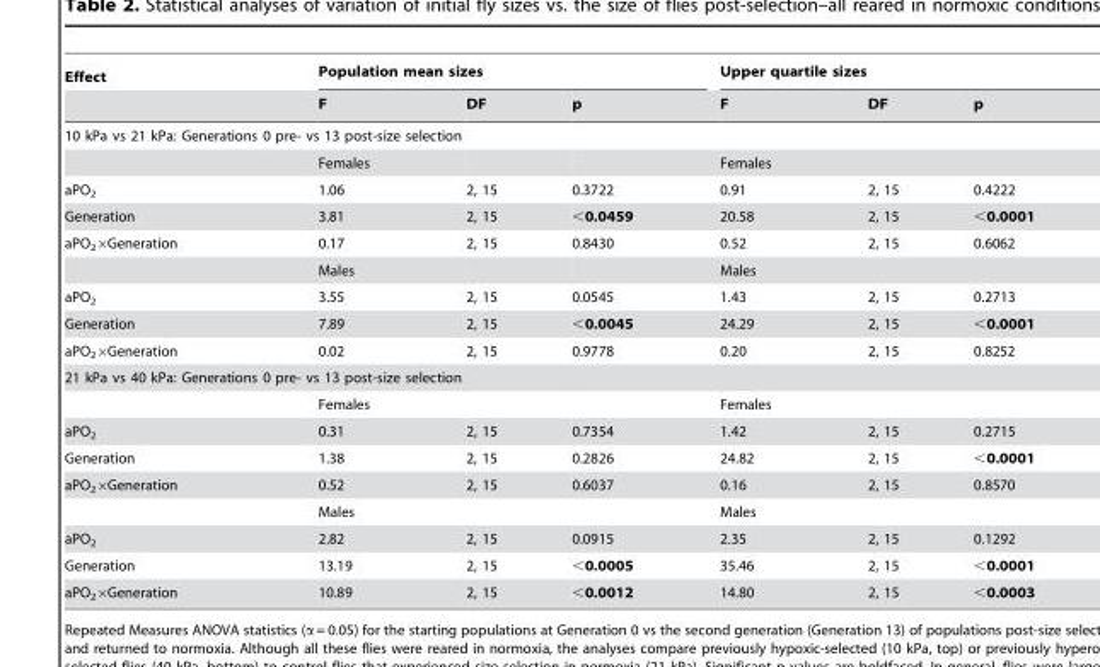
<table><thead><tr><td rowspan="2">Effect</td><td colspan="3">Population mean sizes</td><td colspan="3">Upper quartile sizes</td></tr><tr><td>F</td><td>DF</td><td>p</td><td>F</td><td>DF</td><td>p</td></tr></thead><tbody><tr><td colspan="7">10 kPa vs 21 kPa: Generations 0 pre- vs 13 post-size selection</td></tr><tr><td></td><td>Females</td><td></td><td></td><td>Females</td><td></td><td></td></tr><tr><td>aPO<sub>2</sub></td><td>1.06</td><td>2, 15</td><td>0.3722</td><td>0.91</td><td>2, 15</td><td>0.4222</td></tr><tr><td>Generation</td><td>3.81</td><td>2, 15</td><td>&lt;0.0459</td><td>20.58</td><td>2, 15</td><td>&lt;0.0001</td></tr><tr><td rowspan="2">aPO<sub>2</sub>×Generation</td><td>0.17</td><td>2, 15</td><td>0.8430</td><td>0.52</td><td>2, 15</td><td>0.6062</td></tr><tr><td>Males</td><td></td><td></td><td>Males</td><td></td><td></td></tr><tr><td>aPO<sub>2</sub></td><td>3.55</td><td>2, 15</td><td>0.0545</td><td>1.43</td><td>2, 15</td><td>0.2713</td></tr><tr><td>Generation</td><td>7.89</td><td>2, 15</td><td>&lt;0.0045</td><td>24.29</td><td>2, 15</td><td>&lt;0.0001</td></tr><tr><td>aPO<sub>2</sub>×Generation</td><td>0.02</td><td>2, 15</td><td>0.9778</td><td>0.20</td><td>2, 15</td><td>0.8252</td></tr><tr><td colspan="7">21 kPa vs 40 kPa: Generations 0 pre- vs 13 post-size selection</td></tr><tr><td></td><td>Females</td><td></td><td></td><td>Females</td><td></td><td></td></tr><tr><td>aPO<sub>2</sub></td><td>0.31</td><td>2, 15</td><td>0.7354</td><td>1.42</td><td>2, 15</td><td>0.2715</td></tr><tr><td>Generation</td><td>1.38</td><td>2, 15</td><td>0.2826</td><td>24.82</td><td>2, 15</td><td>&lt;0.0001</td></tr><tr><td rowspan="2">aPO<sub>2</sub>×Generation</td><td>0.52</td><td>2, 15</td><td>0.6037</td><td>0.16</td><td>2, 15</td><td>0.8570</td></tr><tr><td>Males</td><td></td><td></td><td>Males</td><td></td><td></td></tr><tr><td>aPO<sub>2</sub></td><td>2.82</td><td>2, 15</td><td>0.0915</td><td>2.35</td><td>2, 15</td><td>0.1292</td></tr><tr><td>Generation</td><td>13.19</td><td>2, 15</td><td>&lt;0.0005</td><td>35.46</td><td>2, 15</td><td>&lt;0.0001</td></tr><tr><td>aPO<sub>2</sub>×Generation</td><td>10.89</td><td>2, 15</td><td>&lt;0.0012</td><td>14.80</td><td>2, 15</td><td>&lt;0.0003</td></tr></tbody></table>